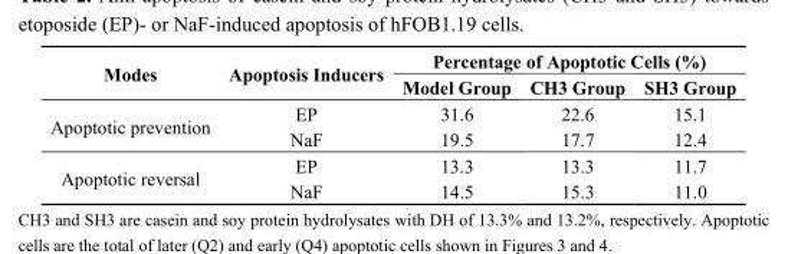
<table><thead><tr><td rowspan="2">Modes</td><td rowspan="2">Apoptosis Inducers</td><td colspan="3">Percentage of Apoptotic Cells (%)</td></tr><tr><td>Model Group</td><td>CH3 Group</td><td>SH3 Group</td></tr></thead><tbody><tr><td rowspan="2">Apoptotic prevention</td><td>EP</td><td>31.6</td><td>22.6</td><td>15.1</td></tr><tr><td>NaF</td><td>19.5</td><td>17.7</td><td>12.4</td></tr><tr><td rowspan="2">Apoptotic reversal</td><td>EP</td><td>13.3</td><td>13.3</td><td>11.7</td></tr><tr><td>NaF</td><td>14.5</td><td>15.3</td><td>11.0</td></tr></tbody></table>